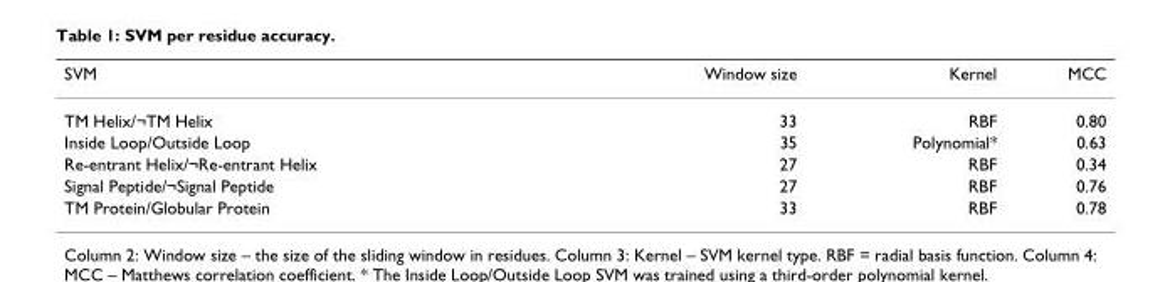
<table><thead><tr><td>SVM</td><td>Window size</td><td>Kernel</td><td>MCC</td></tr></thead><tbody><tr><td>TM Helix/¬TM Helix</td><td>33</td><td>RBF</td><td>0.80</td></tr><tr><td>Inside Loop/Outside Loop</td><td>35</td><td>Polynomial*</td><td>0.63</td></tr><tr><td>Re-entrant Helix/¬Re-entrant Helix</td><td>27</td><td>RBF</td><td>0.34</td></tr><tr><td>Signal Peptide/¬Signal Peptide</td><td>27</td><td>RBF</td><td>0.76</td></tr><tr><td>TM Protein/Globular Protein</td><td>33</td><td>RBF</td><td>0.78</td></tr></tbody></table>